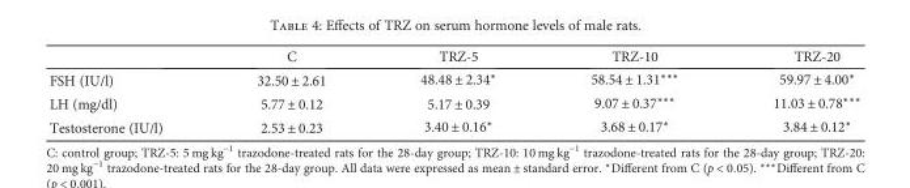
<table><thead><tr><td></td><td>C</td><td>TRZ-5</td><td>TRZ-10</td><td>TRZ-20</td></tr></thead><tbody><tr><td>FSH (IU/l)</td><td>32.50 ± 2.61</td><td>48.48 ± 2.34∗</td><td>58.54 ± 1.31∗∗∗</td><td>59.97 ± 4.00∗</td></tr><tr><td>LH (mg/dl)</td><td>5.77 ± 0.12</td><td>5.17 ± 0.39</td><td>9.07 ± 0.37∗∗∗</td><td>11.03 ± 0.78∗∗∗</td></tr><tr><td>Testosterone (IU/l)</td><td>2.53 ± 0.23</td><td>3.40 ± 0.16∗</td><td>3.68 ± 0.17∗</td><td>3.84 ± 0.12∗</td></tr></tbody></table>